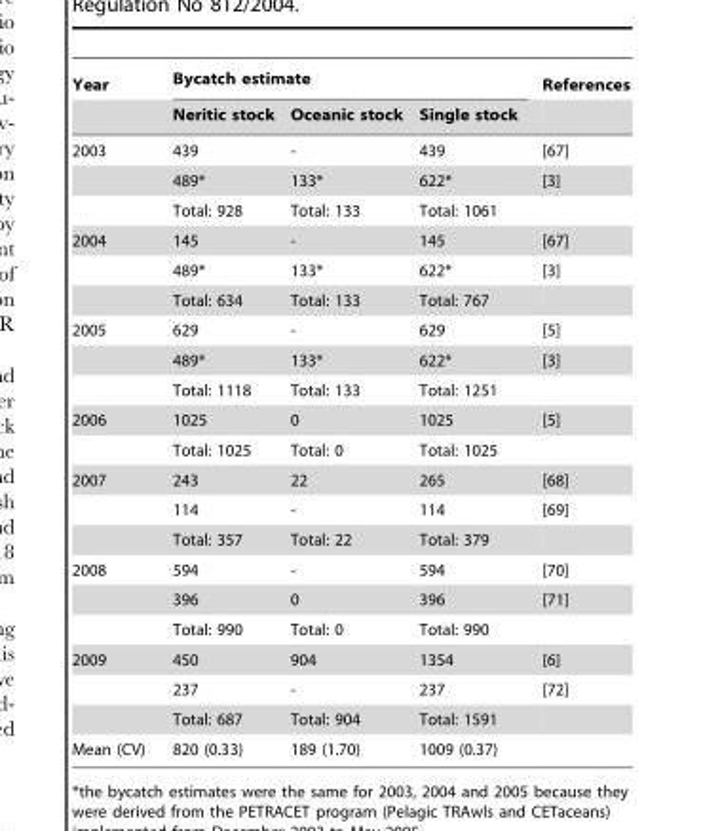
<table><thead><tr><td rowspan="2">Year</td><td colspan="3">Bycatch estimate</td><td rowspan="2">References</td></tr><tr><td>Neritic stock</td><td>Oceanic stock</td><td>Single stock</td></tr></thead><tbody><tr><td rowspan="3">2003</td><td>439</td><td>-</td><td>439</td><td>[67]</td></tr><tr><td>489*</td><td>133*</td><td>622*</td><td>[3]</td></tr><tr><td>Total: 928</td><td>Total: 133</td><td>Total: 1061</td><td></td></tr><tr><td rowspan="3">2004</td><td>145</td><td>-</td><td>145</td><td>[67]</td></tr><tr><td>489*</td><td>133*</td><td>622*</td><td>[3]</td></tr><tr><td>Total: 634</td><td>Total: 133</td><td>Total: 767</td><td></td></tr><tr><td rowspan="3">2005</td><td>629</td><td>-</td><td>629</td><td>[5]</td></tr><tr><td>489*</td><td>133*</td><td>622*</td><td>[3]</td></tr><tr><td>Total: 1118</td><td>Total: 133</td><td>Total: 1251</td><td></td></tr><tr><td rowspan="2">2006</td><td>1025</td><td>0</td><td>1025</td><td>[5]</td></tr><tr><td>Total: 1025</td><td>Total: 0</td><td>Total: 1025</td><td></td></tr><tr><td rowspan="3">2007</td><td>243</td><td>22</td><td>265</td><td>[68]</td></tr><tr><td>114</td><td>-</td><td>114</td><td>[69]</td></tr><tr><td>Total: 357</td><td>Total: 22</td><td>Total: 379</td><td></td></tr><tr><td rowspan="3">2008</td><td>594</td><td>-</td><td>594</td><td>[70]</td></tr><tr><td>396</td><td>0</td><td>396</td><td>[71]</td></tr><tr><td>Total: 990</td><td>Total: 0</td><td>Total: 990</td><td></td></tr><tr><td rowspan="3">2009</td><td>450</td><td>904</td><td>1354</td><td>[6]</td></tr><tr><td>237</td><td>-</td><td>237</td><td>[72]</td></tr><tr><td>Total: 687</td><td>Total: 904</td><td>Total: 1591</td><td></td></tr><tr><td>Mean (CV)</td><td>820 (0.33)</td><td>189 (1.70)</td><td>1009 (0.37)</td><td></td></tr></tbody></table>